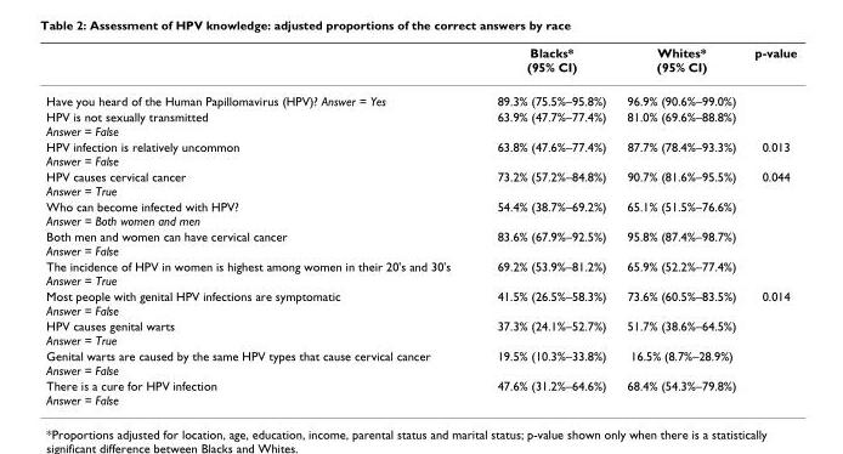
<table><thead><tr><td></td><td>Blacks* (95% CI)</td><td>Whites* (95% CI)</td><td>p-value</td></tr></thead><tbody><tr><td>Have you heard of the Human Papillomavirus (HPV)? Answer = Yes</td><td>89.3% (75.5%–95.8%)</td><td>96.9% (90.6%–99.0%)</td><td></td></tr><tr><td>HPV is not sexually transmitted Answer = False</td><td>63.9% (47.7%–77.4%)</td><td>81.0% (69.6%–88.8%)</td><td></td></tr><tr><td>HPV infection is relatively uncommon Answer = False</td><td>63.8% (47.6%–77.4%)</td><td>87.7% (78.4%–93.3%)</td><td>0.013</td></tr><tr><td>HPV causes cervical cancer Answer = True</td><td>73.2% (57.2%–84.8%)</td><td>90.7% (81.6%–95.5%)</td><td>0.044</td></tr><tr><td>Who can become infected with HPV? Answer = Both women and men</td><td>54.4% (38.7%–69.2%)</td><td>65.1% (51.5%–76.6%)</td><td></td></tr><tr><td>Both men and women can have cervical cancer Answer = False</td><td>83.6% (67.9%–92.5%)</td><td>95.8% (87.4%–98.7%)</td><td></td></tr><tr><td>The incidence of HPV in women is highest among women in their 20&#x27;s and 30&#x27;s Answer = True</td><td>69.2% (53.9%–81.2%)</td><td>65.9% (52.2%–77.4%)</td><td></td></tr><tr><td>Most people with genital HPV infections are symptomatic Answer = False</td><td>41.5% (26.5%–58.3%)</td><td>73.6% (60.5%–83.5%)</td><td>0.014</td></tr><tr><td>HPV causes genital warts Answer = True</td><td>37.3% (24.1%–52.7%)</td><td>51.7% (38.6%–64.5%)</td><td></td></tr><tr><td>Genital warts are caused by the same HPV types that cause cervical cancer Answer = False</td><td>19.5% (10.3%–33.8%)</td><td>16.5% (8.7%–28.9%)</td><td></td></tr><tr><td>There is a cure for HPV infection Answer = False</td><td>47.6% (31.2%–64.6%)</td><td>68.4% (54.3%–79.8%)</td><td></td></tr></tbody></table>